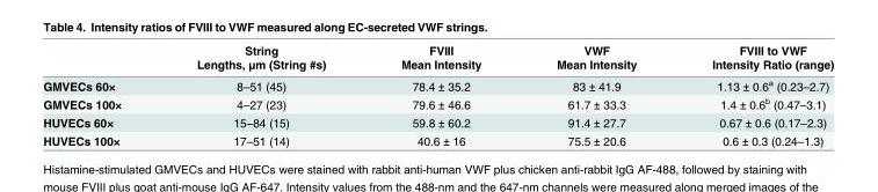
<table><thead><tr><td rowspan="2"></td><td rowspan="2">String Lengths, μm (String #s)</td><td rowspan="2">FVIII Mean Intensity</td><td rowspan="2">VWF Mean Intensity</td><td rowspan="2">FVIII to VWF Intensity Ratio (range)</td></tr><tr></tr></thead><tbody><tr><td>GMVECs 60×</td><td>8–51 (45)</td><td>78.4 ± 35.2</td><td>83 ± 41.9</td><td>1.13 ± 0.6<sup>a</sup> (0.23–2.7)</td></tr><tr><td>GMVECs 100×</td><td>4–27 (23)</td><td>79.6 ± 46.6</td><td>61.7 ± 33.3</td><td>1.4 ± 0.6<sup>b</sup> (0.47–3.1)</td></tr><tr><td>HUVECs 60×</td><td>15–84 (15)</td><td>59.8 ± 60.2</td><td>91.4 ± 27.7</td><td>0.67 ± 0.6 (0.17–2.3)</td></tr><tr><td>HUVECs 100×</td><td>17–51 (14)</td><td>40.6 ± 16</td><td>75.5 ± 20.6</td><td>0.6 ± 0.3 (0.24–1.3)</td></tr></tbody></table>